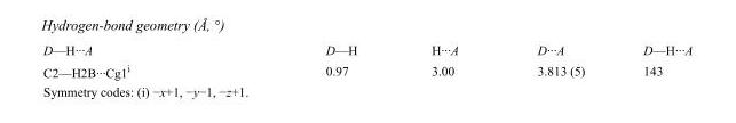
<table><tbody><tr><td>D—H···A</td><td>D—H</td><td>H···A</td><td>D···A</td><td>D—H···A</td></tr><tr><td>C2—H2B···Cg1<sup>i</sup></td><td>0.97</td><td>3.00</td><td>3.813 (5)</td><td>143</td></tr></tbody></table>